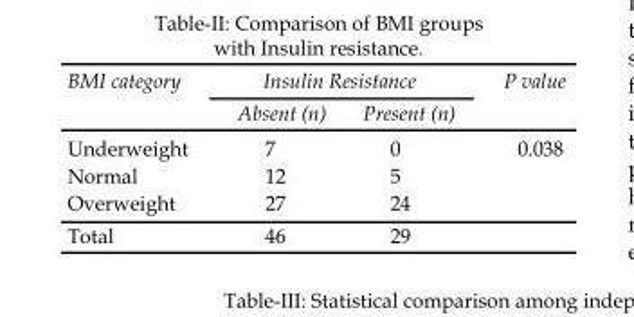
<table><thead><tr><td rowspan="2">BMI category</td><td colspan="2">Insulin Resistance</td><td rowspan="2">P value</td></tr><tr><td>Absent (n)</td><td>Present (n)</td></tr></thead><tbody><tr><td>Underweight</td><td>7</td><td>0</td><td rowspan="4">0.038</td></tr><tr><td>Normal</td><td>12</td><td>5</td></tr><tr><td>Overweight</td><td>27</td><td>24</td></tr><tr><td>Total</td><td>46</td><td>29</td></tr></tbody></table>